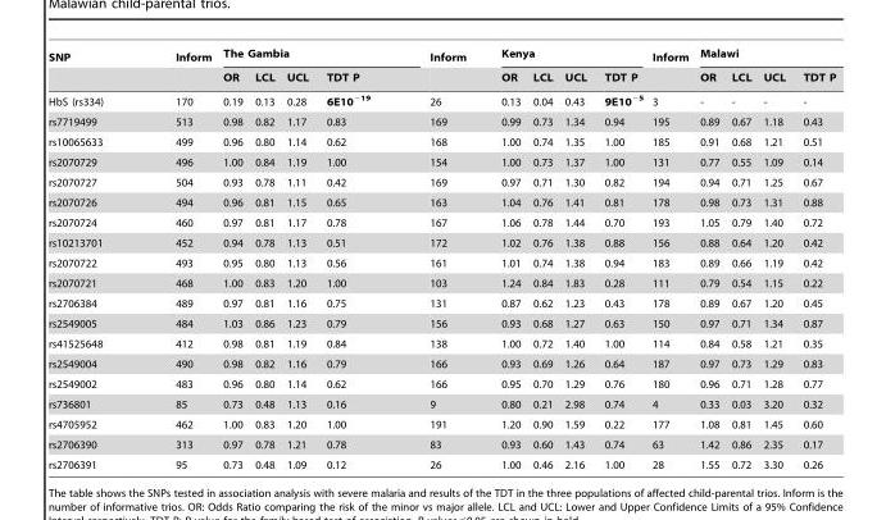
<table><thead><tr><td rowspan="2">SNP</td><td rowspan="2">Inform</td><td colspan="4">The Gambia</td><td rowspan="2">Inform</td><td colspan="4">Kenya</td><td rowspan="2">Inform</td><td colspan="4">Malawi</td></tr><tr><td>OR</td><td>LCL</td><td>UCL</td><td>TDT P</td><td>OR</td><td>LCL</td><td>UCL</td><td>TDT P</td><td>OR</td><td>LCL</td><td>UCL</td><td>TDT P</td></tr></thead><tbody><tr><td>HbS (rs334)</td><td>170</td><td>0.19</td><td>0.13</td><td>0.28</td><td>6E10<sup>−19</sup></td><td>26</td><td>0.13</td><td>0.04</td><td>0.43</td><td>9E10<sup>−5</sup></td><td>3</td><td>-</td><td>-</td><td>-</td><td>-</td></tr><tr><td>rs7719499</td><td>513</td><td>0.98</td><td>0.82</td><td>1.17</td><td>0.83</td><td>169</td><td>0.99</td><td>0.73</td><td>1.34</td><td>0.94</td><td>195</td><td>0.89</td><td>0.67</td><td>1.18</td><td>0.43</td></tr><tr><td>rs10065633</td><td>499</td><td>0.96</td><td>0.80</td><td>1.14</td><td>0.62</td><td>168</td><td>1.00</td><td>0.74</td><td>1.35</td><td>1.00</td><td>185</td><td>0.91</td><td>0.68</td><td>1.21</td><td>0.51</td></tr><tr><td>rs2070729</td><td>496</td><td>1.00</td><td>0.84</td><td>1.19</td><td>1.00</td><td>154</td><td>1.00</td><td>0.73</td><td>1.37</td><td>1.00</td><td>131</td><td>0.77</td><td>0.55</td><td>1.09</td><td>0.14</td></tr><tr><td>rs2070727</td><td>504</td><td>0.93</td><td>0.78</td><td>1.11</td><td>0.42</td><td>169</td><td>0.97</td><td>0.71</td><td>1.30</td><td>0.82</td><td>194</td><td>0.94</td><td>0.71</td><td>1.25</td><td>0.67</td></tr><tr><td>rs2070726</td><td>494</td><td>0.96</td><td>0.81</td><td>1.15</td><td>0.65</td><td>163</td><td>1.04</td><td>0.76</td><td>1.41</td><td>0.81</td><td>178</td><td>0.98</td><td>0.73</td><td>1.31</td><td>0.88</td></tr><tr><td>rs2070724</td><td>460</td><td>0.97</td><td>0.81</td><td>1.17</td><td>0.78</td><td>167</td><td>1.06</td><td>0.78</td><td>1.44</td><td>0.70</td><td>193</td><td>1.05</td><td>0.79</td><td>1.40</td><td>0.72</td></tr><tr><td>rs10213701</td><td>452</td><td>0.94</td><td>0.78</td><td>1.13</td><td>0.51</td><td>172</td><td>1.02</td><td>0.76</td><td>1.38</td><td>0.88</td><td>156</td><td>0.88</td><td>0.64</td><td>1.20</td><td>0.42</td></tr><tr><td>rs2070722</td><td>493</td><td>0.95</td><td>0.80</td><td>1.13</td><td>0.56</td><td>161</td><td>1.01</td><td>0.74</td><td>1.38</td><td>0.94</td><td>183</td><td>0.89</td><td>0.66</td><td>1.19</td><td>0.42</td></tr><tr><td>rs2070721</td><td>468</td><td>1.00</td><td>0.83</td><td>1.20</td><td>1.00</td><td>103</td><td>1.24</td><td>0.84</td><td>1.83</td><td>0.28</td><td>111</td><td>0.79</td><td>0.54</td><td>1.15</td><td>0.22</td></tr><tr><td>rs2706384</td><td>489</td><td>0.97</td><td>0.81</td><td>1.16</td><td>0.75</td><td>131</td><td>0.87</td><td>0.62</td><td>1.23</td><td>0.43</td><td>178</td><td>0.89</td><td>0.67</td><td>1.20</td><td>0.45</td></tr><tr><td>rs2549005</td><td>484</td><td>1.03</td><td>0.86</td><td>1.23</td><td>0.79</td><td>156</td><td>0.93</td><td>0.68</td><td>1.27</td><td>0.63</td><td>150</td><td>0.97</td><td>0.71</td><td>1.34</td><td>0.87</td></tr><tr><td>rs41525648</td><td>412</td><td>0.98</td><td>0.81</td><td>1.19</td><td>0.84</td><td>138</td><td>1.00</td><td>0.72</td><td>1.40</td><td>1.00</td><td>114</td><td>0.84</td><td>0.58</td><td>1.21</td><td>0.35</td></tr><tr><td>rs2549004</td><td>490</td><td>0.98</td><td>0.82</td><td>1.16</td><td>0.79</td><td>166</td><td>0.93</td><td>0.69</td><td>1.26</td><td>0.64</td><td>187</td><td>0.97</td><td>0.73</td><td>1.29</td><td>0.83</td></tr><tr><td>rs2549002</td><td>483</td><td>0.96</td><td>0.80</td><td>1.14</td><td>0.62</td><td>166</td><td>0.95</td><td>0.70</td><td>1.29</td><td>0.76</td><td>180</td><td>0.96</td><td>0.71</td><td>1.28</td><td>0.77</td></tr><tr><td>rs736801</td><td>85</td><td>0.73</td><td>0.48</td><td>1.13</td><td>0.16</td><td>9</td><td>0.80</td><td>0.21</td><td>2.98</td><td>0.74</td><td>4</td><td>0.33</td><td>0.03</td><td>3.20</td><td>0.32</td></tr><tr><td>rs4705952</td><td>462</td><td>1.00</td><td>0.83</td><td>1.20</td><td>1.00</td><td>191</td><td>1.20</td><td>0.90</td><td>1.59</td><td>0.22</td><td>177</td><td>1.08</td><td>0.81</td><td>1.45</td><td>0.60</td></tr><tr><td>rs2706390</td><td>313</td><td>0.97</td><td>0.78</td><td>1.21</td><td>0.78</td><td>83</td><td>0.93</td><td>0.60</td><td>1.43</td><td>0.74</td><td>63</td><td>1.42</td><td>0.86</td><td>2.35</td><td>0.17</td></tr><tr><td>rs2706391</td><td>95</td><td>0.73</td><td>0.48</td><td>1.09</td><td>0.12</td><td>26</td><td>1.00</td><td>0.46</td><td>2.16</td><td>1.00</td><td>28</td><td>1.55</td><td>0.72</td><td>3.30</td><td>0.26</td></tr></tbody></table>